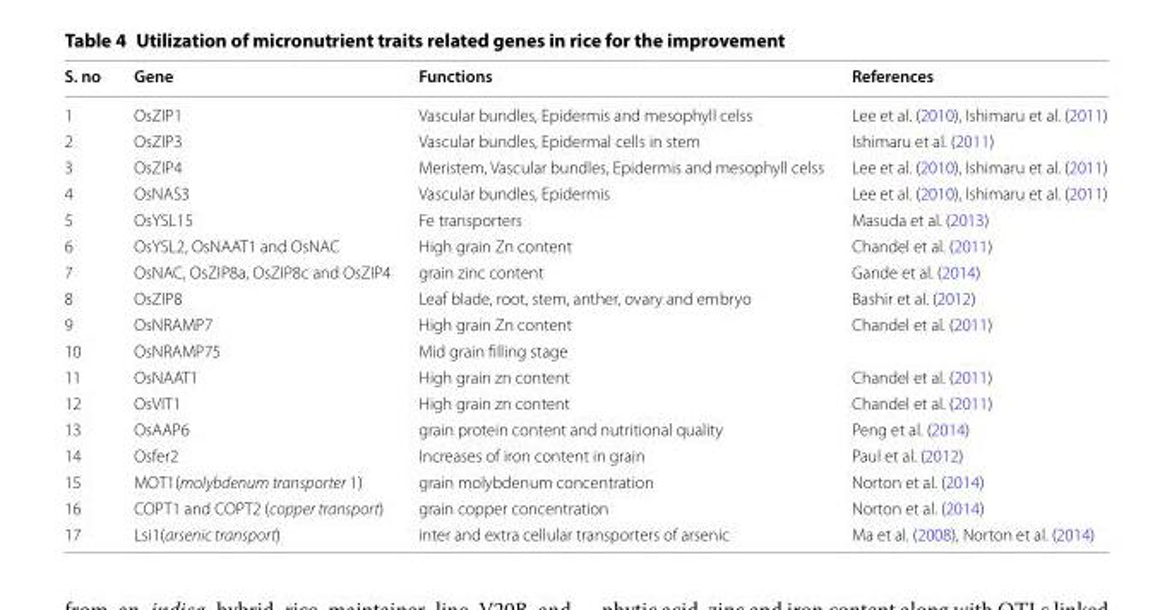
<table><thead><tr><td>S. no</td><td>Gene</td><td>Functions</td><td>References</td></tr></thead><tbody><tr><td>1</td><td>OsZIP1</td><td>Vascular bundles, Epidermis and mesophyll celss</td><td>Lee et al. (2010), Ishimaru et al. (2011)</td></tr><tr><td>2</td><td>OsZIP3</td><td>Vascular bundles, Epidermal cells in stem</td><td>Ishimaru et al. (2011)</td></tr><tr><td>3</td><td>OsZIP4</td><td>Meristem, Vascular bundles, Epidermis and mesophyll celss</td><td>Lee et al. (2010), Ishimaru et al. (2011)</td></tr><tr><td>4</td><td>OsNAS3</td><td>Vascular bundles, Epidermis</td><td>Lee et al. (2010), Ishimaru et al. (2011)</td></tr><tr><td>5</td><td>OsYSL15</td><td>Fe transporters</td><td>Masuda et al. (2013)</td></tr><tr><td>6</td><td>OsYSL2, OsNAAT1 and OsNAC</td><td>High grain Zn content</td><td>Chandel et al. (2011)</td></tr><tr><td>7</td><td>OsNAC, OsZIP8a, OsZIP8c and OsZIP4</td><td>grain zinc content</td><td>Gande et al. (2014)</td></tr><tr><td>8</td><td>OsZIP8</td><td>Leaf blade, root, stem, anther, ovary and embryo</td><td>Bashir et al. (2012)</td></tr><tr><td>9</td><td>OsNRAMP7</td><td>High grain Zn content</td><td>Chandel et al. (2011)</td></tr><tr><td>10</td><td>OsNRAMP75</td><td>Mid grain filling stage</td><td></td></tr><tr><td>11</td><td>OsNAAT1</td><td>High grain zn content</td><td>Chandel et al. (2011)</td></tr><tr><td>12</td><td>OsVIT1</td><td>High grain zn content</td><td>Chandel et al. (2011)</td></tr><tr><td>13</td><td>OsAAP6</td><td>grain protein content and nutritional quality</td><td>Peng et al. (2014)</td></tr><tr><td>14</td><td>Osfer2</td><td>Increases of iron content in grain</td><td>Paul et al. (2012)</td></tr><tr><td>15</td><td>MOT1(molybdenum transporter 1)</td><td>grain molybdenum concentration</td><td>Norton et al. (2014)</td></tr><tr><td>16</td><td>COPT1 and COPT2 (copper transport)</td><td>grain copper concentration</td><td>Norton et al. (2014)</td></tr><tr><td>17</td><td>Lsi1(arsenic transport)</td><td>inter and extra cellular transporters of arsenic</td><td>Ma et al. (2008), Norton et al. (2014)</td></tr></tbody></table>